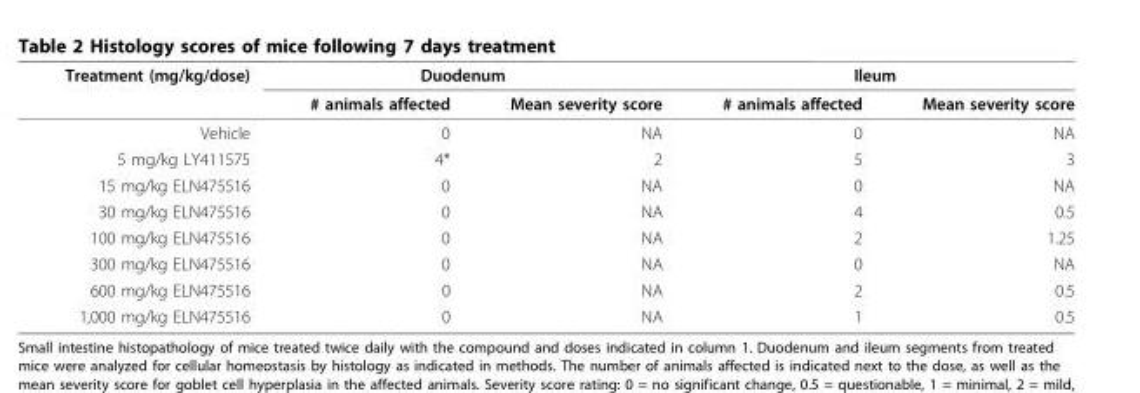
<table><thead><tr><td rowspan="2">Treatment (mg/kg/dose)</td><td colspan="2">Duodenum</td><td colspan="2">Ileum</td></tr><tr><td># animals affected</td><td>Mean severity score</td><td># animals affected</td><td>Mean severity score</td></tr></thead><tbody><tr><td>Vehicle</td><td>0</td><td>NA</td><td>0</td><td>NA</td></tr><tr><td>5 mg/kg LY411575</td><td>4*</td><td>2</td><td>5</td><td>3</td></tr><tr><td>15 mg/kg ELN475516</td><td>0</td><td>NA</td><td>0</td><td>NA</td></tr><tr><td>30 mg/kg ELN475516</td><td>0</td><td>NA</td><td>4</td><td>0.5</td></tr><tr><td>100 mg/kg ELN475516</td><td>0</td><td>NA</td><td>2</td><td>1.25</td></tr><tr><td>300 mg/kg ELN475516</td><td>0</td><td>NA</td><td>0</td><td>NA</td></tr><tr><td>600 mg/kg ELN475516</td><td>0</td><td>NA</td><td>2</td><td>0.5</td></tr><tr><td>1,000 mg/kg ELN475516</td><td>0</td><td>NA</td><td>1</td><td>0.5</td></tr></tbody></table>